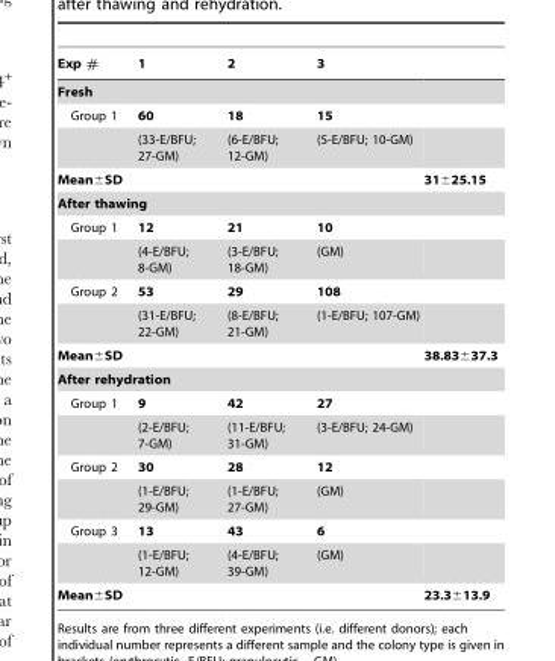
<table><thead><tr><td>Exp #</td><td>1</td><td>2</td><td>3</td><td></td></tr></thead><tbody><tr><td colspan="5">Fresh</td></tr><tr><td rowspan="2">Group 1</td><td>60</td><td>18</td><td>15</td><td></td></tr><tr><td>(33-E/BFU; 27-GM)</td><td>(6-E/BFU; 12-GM)</td><td>(5-E/BFU; 10-GM)</td><td></td></tr><tr><td>Mean±SD</td><td></td><td></td><td></td><td>31±25.15</td></tr><tr><td colspan="5">After thawing</td></tr><tr><td rowspan="2">Group 1</td><td>12</td><td>21</td><td>10</td><td></td></tr><tr><td>(4-E/BFU; 8-GM)</td><td>(3-E/BFU; 18-GM)</td><td>(GM)</td><td></td></tr><tr><td rowspan="2">Group 2</td><td>53</td><td>29</td><td>108</td><td></td></tr><tr><td>(31-E/BFU; 22-GM)</td><td>(8-E/BFU; 21-GM)</td><td>(1-E/BFU; 107-GM)</td><td></td></tr><tr><td>Mean±SD</td><td></td><td></td><td></td><td>38.83±37.3</td></tr><tr><td colspan="5">After rehydration</td></tr><tr><td rowspan="2">Group 1</td><td>9</td><td>42</td><td>27</td><td></td></tr><tr><td>(2-E/BFU; 7-GM)</td><td>(11-E/BFU; 31-GM)</td><td>(3-E/BFU; 24-GM)</td><td></td></tr><tr><td rowspan="2">Group 2</td><td>30</td><td>28</td><td>12</td><td></td></tr><tr><td>(1-E/BFU; 29-GM)</td><td>(1-E/BFU; 27-GM)</td><td>(GM)</td><td></td></tr><tr><td rowspan="2">Group 3</td><td>13</td><td>43</td><td>6</td><td></td></tr><tr><td>(1-E/BFU; 12-GM)</td><td>(4-E/BFU; 39-GM)</td><td>(GM)</td><td></td></tr><tr><td>Mean±SD</td><td></td><td></td><td></td><td>23.3±13.9</td></tr></tbody></table>